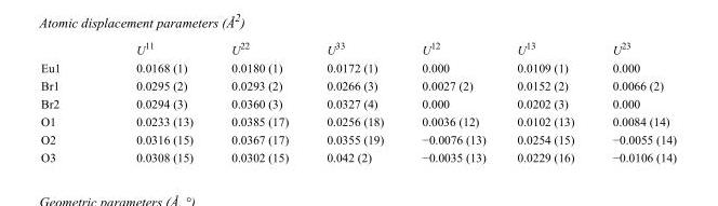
<table><thead><tr><td></td><td>U<sup>11</sup></td><td>U<sup>22</sup></td><td>U<sup>33</sup></td><td>U<sup>12</sup></td><td>U<sup>13</sup></td><td>U<sup>23</sup></td></tr></thead><tbody><tr><td>Eu1</td><td>0.0168 (1)</td><td>0.0180 (1)</td><td>0.0172 (1)</td><td>0.000</td><td>0.0109 (1)</td><td>0.000</td></tr><tr><td>Br1</td><td>0.0295 (2)</td><td>0.0293 (2)</td><td>0.0266 (3)</td><td>0.0027 (2)</td><td>0.0152 (2)</td><td>0.0066 (2)</td></tr><tr><td>Br2</td><td>0.0294 (3)</td><td>0.0360 (3)</td><td>0.0327 (4)</td><td>0.000</td><td>0.0202 (3)</td><td>0.000</td></tr><tr><td>O1</td><td>0.0233 (13)</td><td>0.0385 (17)</td><td>0.0256 (18)</td><td>0.0036 (12)</td><td>0.0102 (13)</td><td>0.0084 (14)</td></tr><tr><td>O2</td><td>0.0316 (15)</td><td>0.0367 (17)</td><td>0.0355 (19)</td><td>−0.0076 (13)</td><td>0.0254 (15)</td><td>−0.0055 (14)</td></tr><tr><td>O3</td><td>0.0308 (15)</td><td>0.0302 (15)</td><td>0.042 (2)</td><td>−0.0035 (13)</td><td>0.0229 (16)</td><td>−0.0106 (14)</td></tr></tbody></table>